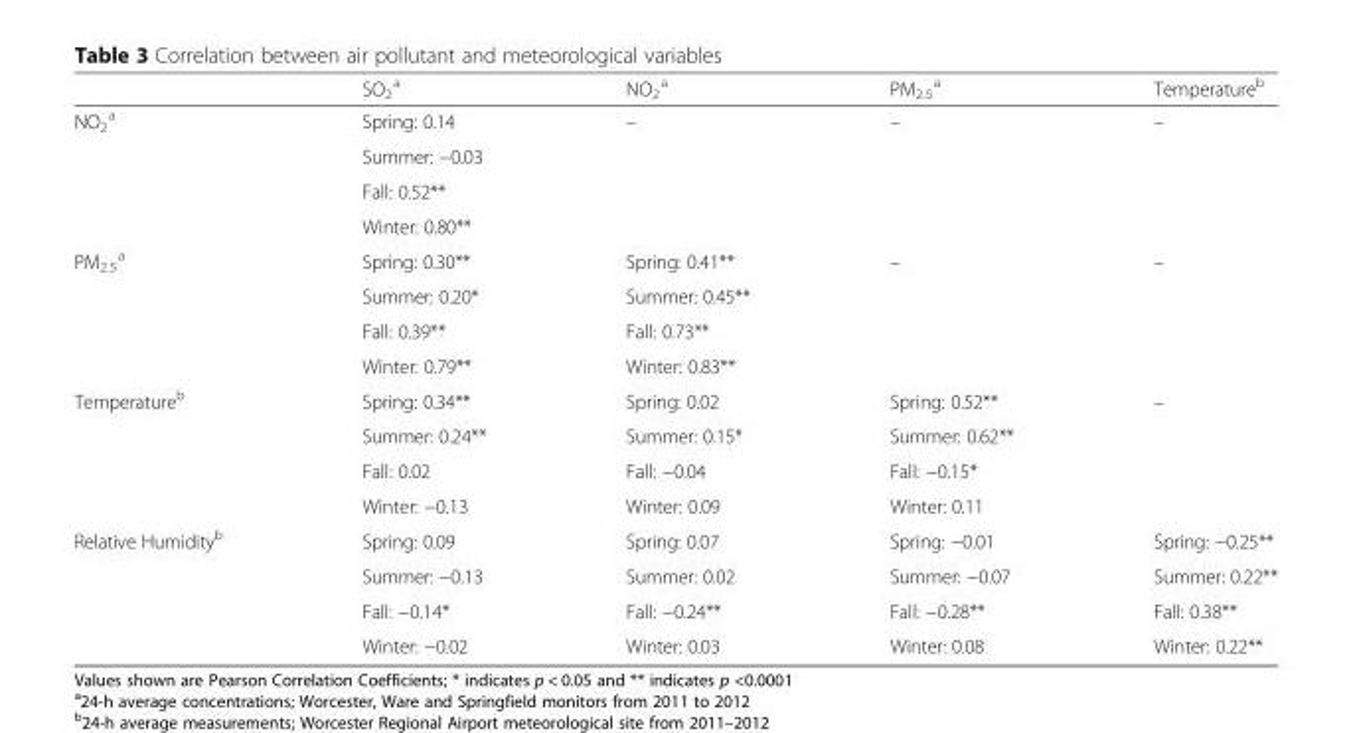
<table><thead><tr><td></td><td>SO<sub>2</sub> <sup>a</sup></td><td>NO<sub>2</sub> <sup>a</sup></td><td>PM<sub>2.5</sub> <sup>a</sup></td><td>Temperature<sup>b</sup></td></tr></thead><tbody><tr><td rowspan="4">NO<sub>2</sub> <sup>a</sup></td><td>Spring: 0.14</td><td rowspan="4">–</td><td rowspan="4">–</td><td rowspan="4">–</td></tr><tr><td>Summer: −0.03</td></tr><tr><td>Fall: 0.52**</td></tr><tr><td>Winter: 0.80**</td></tr><tr><td rowspan="4">PM<sub>2.5</sub> <sup>a</sup></td><td>Spring: 0.30**</td><td>Spring: 0.41**</td><td rowspan="4">–</td><td rowspan="4">–</td></tr><tr><td>Summer: 0.20*</td><td>Summer: 0.45**</td></tr><tr><td>Fall: 0.39**</td><td>Fall: 0.73**</td></tr><tr><td>Winter: 0.79**</td><td>Winter: 0.83**</td></tr><tr><td rowspan="4">Temperature<sup>b</sup></td><td>Spring: 0.34**</td><td>Spring: 0.02</td><td>Spring: 0.52**</td><td rowspan="4">–</td></tr><tr><td>Summer: 0.24**</td><td>Summer: 0.15*</td><td>Summer: 0.62**</td></tr><tr><td>Fall: 0.02</td><td>Fall: −0.04</td><td>Fall: −0.15*</td></tr><tr><td>Winter: −0.13</td><td>Winter: 0.09</td><td>Winter: 0.11</td></tr><tr><td rowspan="4">Relative Humidity<sup>b</sup></td><td>Spring: 0.09</td><td>Spring: 0.07</td><td>Spring: −0.01</td><td>Spring: −0.25**</td></tr><tr><td>Summer: −0.13</td><td>Summer: 0.02</td><td>Summer: −0.07</td><td>Summer: 0.22**</td></tr><tr><td>Fall: −0.14*</td><td>Fall: −0.24**</td><td>Fall: −0.28**</td><td>Fall: 0.38**</td></tr><tr><td>Winter: −0.02</td><td>Winter: 0.03</td><td>Winter: 0.08</td><td>Winter: 0.22**</td></tr></tbody></table>